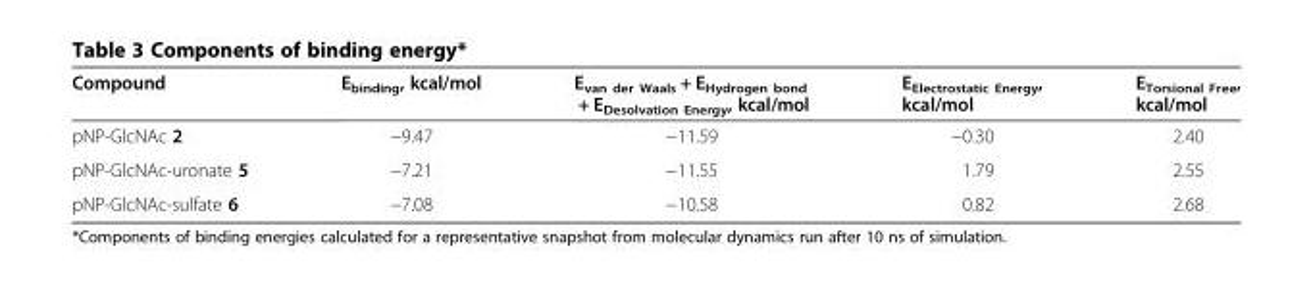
<table><thead><tr><td>Compound</td><td>E<sub>binding</sub>, kcal/mol</td><td>E<sub>van der Waals</sub> + E<sub>Hydrogen bond</sub> + E<sub>Desolvation Energy</sub>, kcal/mol</td><td>E<sub>Electrostatic Energy</sub>, kcal/mol</td><td>E<sub>Torsional Free</sub>, kcal/mol</td></tr></thead><tbody><tr><td>pNP-GlcNAc 2</td><td>−9.47</td><td>−11.59</td><td>−0.30</td><td>2.40</td></tr><tr><td>pNP-GlcNAc-uronate 5</td><td>−7.21</td><td>−11.55</td><td>1.79</td><td>2.55</td></tr><tr><td>pNP-GlcNAc-sulfate 6</td><td>−7.08</td><td>−10.58</td><td>0.82</td><td>2.68</td></tr></tbody></table>